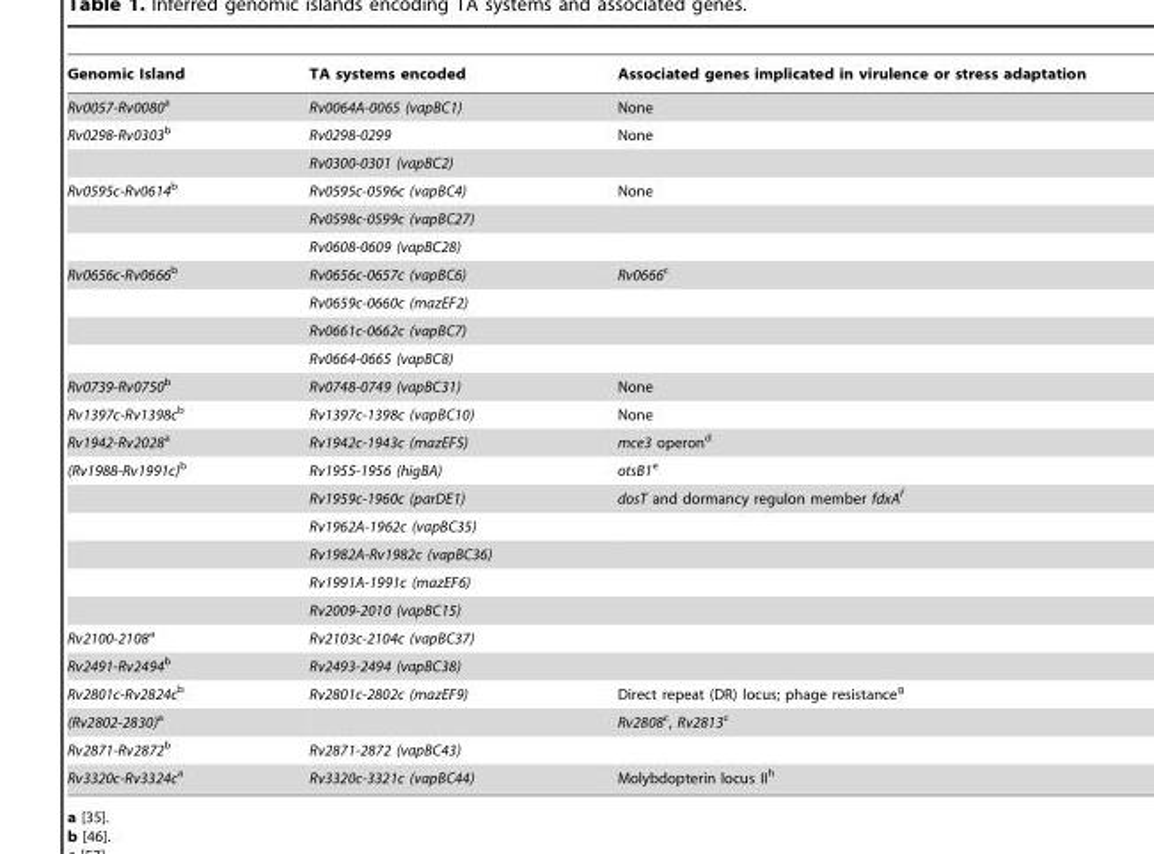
<table><thead><tr><td>Genomic Island</td><td>TA systems encoded</td><td>Associated genes implicated in virulence or stress adaptation</td></tr></thead><tbody><tr><td>Rv0057-Rv0080a</td><td>Rv0064A-0065 (vapBC1)</td><td>None</td></tr><tr><td rowspan="2">Rv0298-Rv0303b</td><td>Rv0298-0299</td><td>None</td></tr><tr><td>Rv0300-0301 (vapBC2)</td><td></td></tr><tr><td rowspan="3">Rv0595c-Rv0614b</td><td>Rv0595c-0596c (vapBC4)</td><td>None</td></tr><tr><td>Rv0598c-0599c (vapBC27)</td><td></td></tr><tr><td>Rv0608-0609 (vapBC28)</td><td></td></tr><tr><td rowspan="4">Rv0656c-Rv0666b</td><td>Rv0656c-0657c (vapBC6)</td><td>Rv0666c</td></tr><tr><td>Rv0659c-0660c (mazEF2)</td><td></td></tr><tr><td>Rv0661c-0662c (vapBC7)</td><td></td></tr><tr><td>Rv0664-0665 (vapBC8)</td><td></td></tr><tr><td>Rv0739-Rv0750b</td><td>Rv0748-0749 (vapBC31)</td><td>None</td></tr><tr><td>Rv1397c-Rv1398cb</td><td>Rv1397c-1398c (vapBC10)</td><td>None</td></tr><tr><td>Rv1942-Rv2028a</td><td>Rv1942c-1943c (mazEF5)</td><td>mce3 operon<sup>d</sup></td></tr><tr><td rowspan="6">(Rv1988-Rv1991c)b</td><td>Rv1955-1956 (higBA)</td><td>otsB1e</td></tr><tr><td>Rv1959c-1960c (parDE1)</td><td>dosT and dormancy regulon member fdxAf</td></tr><tr><td>Rv1962A-1962c (vapBC35)</td><td></td></tr><tr><td>Rv1982A-Rv1982c (vapBC36)</td><td></td></tr><tr><td>Rv1991A-1991c (mazEF6)</td><td></td></tr><tr><td>Rv2009-2010 (vapBC15)</td><td></td></tr><tr><td>Rv2100-2108a</td><td>Rv2103c-2104c (vapBC37)</td><td></td></tr><tr><td>Rv2491-Rv2494b</td><td>Rv2493-2494 (vapBC38)</td><td></td></tr><tr><td>Rv2801c-Rv2824cb</td><td>Rv2801c-2802c (mazEF9)</td><td>Direct repeat (DR) locus; phage resistance<sup>g</sup></td></tr><tr><td>(Rv2802-2830)a</td><td></td><td>Rv2808c, Rv2813c</td></tr><tr><td>Rv2871-Rv2872b</td><td>Rv2871-2872 (vapBC43)</td><td></td></tr><tr><td>Rv3320c-Rv3324ca</td><td>Rv3320c-3321c (vapBC44)</td><td>Molybdopterin locus II<sup>h</sup></td></tr></tbody></table>